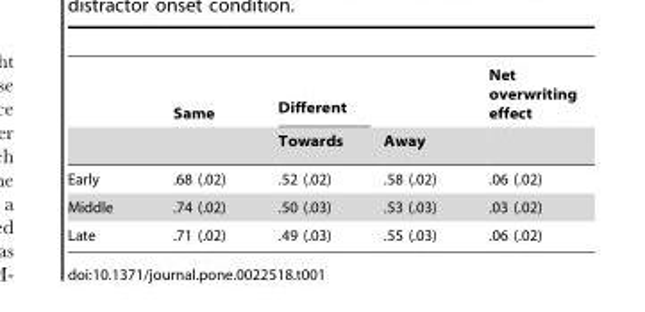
<table><thead><tr><td rowspan="2"></td><td rowspan="2">Same</td><td rowspan="2">Different Towards</td><td rowspan="2">Away</td><td rowspan="2">Net overwriting effect</td></tr><tr></tr></thead><tbody><tr><td>Early</td><td>.68 (.02)</td><td>.52 (.02)</td><td>.58 (.02)</td><td>.06 (.02)</td></tr><tr><td>Middle</td><td>.74 (.02)</td><td>.50 (.03)</td><td>.53 (.03)</td><td>.03 (.02)</td></tr><tr><td>Late</td><td>.71 (.02)</td><td>.49 (.03)</td><td>.55 (.03)</td><td>.06 (.02)</td></tr></tbody></table>